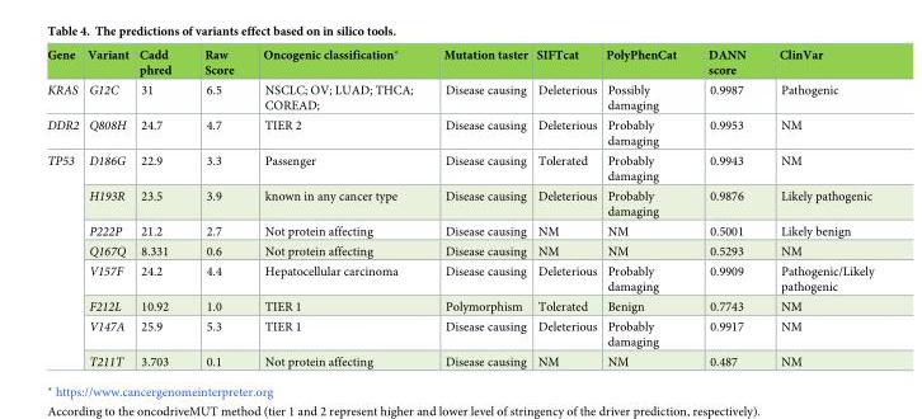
<table><thead><tr><td>Gene</td><td>Variant</td><td>Cadd phred</td><td>Raw Score</td><td>Oncogenic classification*</td><td>Mutation taster</td><td>SIFTcat</td><td>PolyPhenCat</td><td>DANN score</td><td>ClinVar</td></tr></thead><tbody><tr><td>KRAS</td><td>G12C</td><td>31</td><td>6.5</td><td>NSCLC; OV; LUAD; THCA; COREAD;</td><td>Disease causing</td><td>Deleterious</td><td>Possibly damaging</td><td>0.9987</td><td>Pathogenic</td></tr><tr><td>DDR2</td><td>Q808H</td><td>24.7</td><td>4.7</td><td>TIER 2</td><td>Disease causing</td><td>Deleterious</td><td>Probably damaging</td><td>0.9953</td><td>NM</td></tr><tr><td rowspan="8">TP53</td><td>D186G</td><td>22.9</td><td>3.3</td><td>Passenger</td><td>Disease causing</td><td>Tolerated</td><td>Probably damaging</td><td>0.9943</td><td>NM</td></tr><tr><td>H193R</td><td>23.5</td><td>3.9</td><td>known in any cancer type</td><td>Disease causing</td><td>Deleterious</td><td>Probably damaging</td><td>0.9876</td><td>Likely pathogenic</td></tr><tr><td>P222P</td><td>21.2</td><td>2.7</td><td>Not protein affecting</td><td>Disease causing</td><td>NM</td><td>NM</td><td>0.5001</td><td>Likely benign</td></tr><tr><td>Q167Q</td><td>8.331</td><td>0.6</td><td>Not protein affecting</td><td>Disease causing</td><td>NM</td><td>NM</td><td>0.5293</td><td>NM</td></tr><tr><td>V157F</td><td>24.2</td><td>4.4</td><td>Hepatocellular carcinoma</td><td>Disease causing</td><td>Deleterious</td><td>Probably damaging</td><td>0.9909</td><td>Pathogenic/Likely pathogenic</td></tr><tr><td>F212L</td><td>10.92</td><td>1.0</td><td>TIER 1</td><td>Polymorphism</td><td>Tolerated</td><td>Benign</td><td>0.7743</td><td>NM</td></tr><tr><td>V147A</td><td>25.9</td><td>5.3</td><td>TIER 1</td><td>Disease causing</td><td>Deleterious</td><td>Probably damaging</td><td>0.9917</td><td>NM</td></tr><tr><td>T211T</td><td>3.703</td><td>0.1</td><td>Not protein affecting</td><td>Disease causing</td><td>NM</td><td>NM</td><td>0.487</td><td>NM</td></tr></tbody></table>